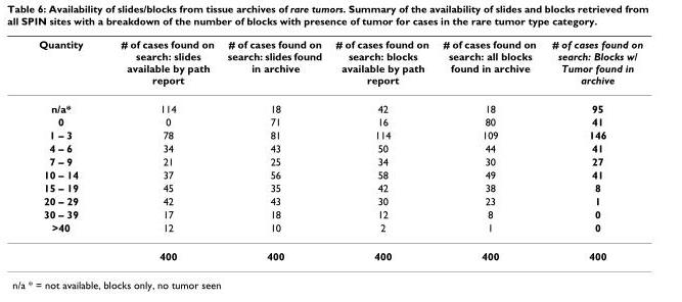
<table><thead><tr><td>Quantity</td><td># of cases found on search: slides available by path report</td><td># of cases found on search: slides found in archive</td><td># of cases found on search: blocks available by path report</td><td># of cases found on search: all blocks found in archive</td><td># of cases found on search: Blocks w/ Tumor found in archive</td></tr></thead><tbody><tr><td>n/a*</td><td>114</td><td>18</td><td>42</td><td>18</td><td>95</td></tr><tr><td>0</td><td>0</td><td>71</td><td>16</td><td>80</td><td>41</td></tr><tr><td>1 – 3</td><td>78</td><td>81</td><td>114</td><td>109</td><td>146</td></tr><tr><td>4 – 6</td><td>34</td><td>43</td><td>50</td><td>44</td><td>41</td></tr><tr><td>7 – 9</td><td>21</td><td>25</td><td>34</td><td>30</td><td>27</td></tr><tr><td>10 – 14</td><td>37</td><td>56</td><td>58</td><td>49</td><td>41</td></tr><tr><td>15 – 19</td><td>45</td><td>35</td><td>42</td><td>38</td><td>8</td></tr><tr><td>20 – 29</td><td>42</td><td>43</td><td>30</td><td>23</td><td>1</td></tr><tr><td>30 – 39</td><td>17</td><td>18</td><td>12</td><td>8</td><td>0</td></tr><tr><td rowspan="2">&gt;40</td><td>12</td><td>10</td><td>2</td><td>1</td><td>0</td></tr><tr><td>400</td><td>400</td><td>400</td><td>400</td><td>400</td></tr></tbody></table>